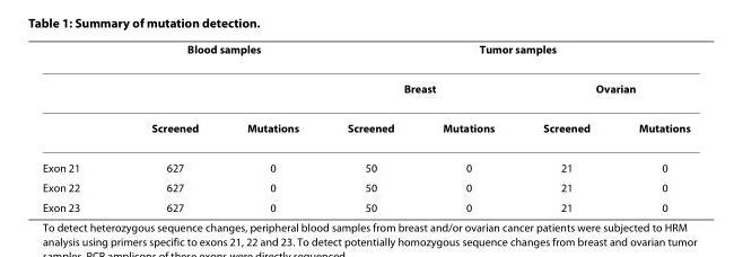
<table><thead><tr><td rowspan="3"></td><td colspan="2">Blood samples</td><td colspan="4">Tumor samples</td></tr><tr><td rowspan="2">Screened</td><td rowspan="2">Mutations</td><td colspan="2">Breast</td><td colspan="2">Ovarian</td></tr><tr><td>Screened</td><td>Mutations</td><td>Screened</td><td>Mutations</td></tr></thead><tbody><tr><td>Exon 21</td><td>627</td><td>0</td><td>50</td><td>0</td><td>21</td><td>0</td></tr><tr><td>Exon 22</td><td>627</td><td>0</td><td>50</td><td>0</td><td>21</td><td>0</td></tr><tr><td>Exon 23</td><td>627</td><td>0</td><td>50</td><td>0</td><td>21</td><td>0</td></tr></tbody></table>